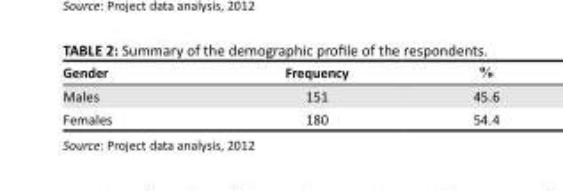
<table><thead><tr><td>Gender</td><td>Frequency</td><td>%</td></tr></thead><tbody><tr><td>Males</td><td>151</td><td>45.6</td></tr><tr><td>Females</td><td>180</td><td>54.4</td></tr></tbody></table>